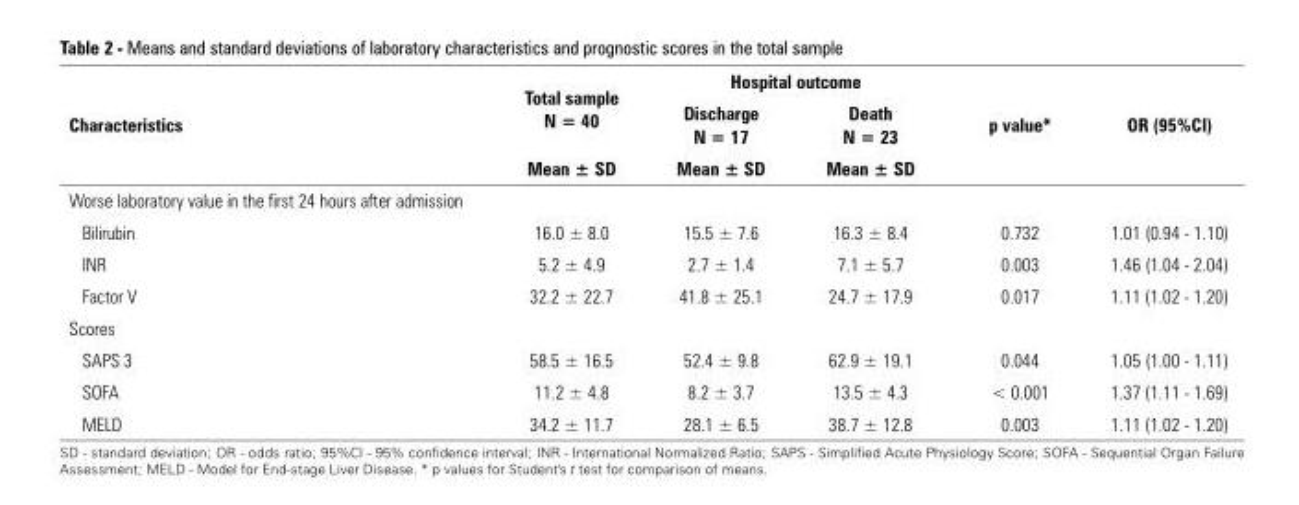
<table><thead><tr><td rowspan="3">Characteristics</td><td rowspan="3">Total sample N = 40 Mean ± SD</td><td colspan="2">Hospital outcome</td><td rowspan="3">p value*</td><td rowspan="3">OR (95%CI)</td></tr><tr><td rowspan="2">Discharge N = 17 Mean ± SD</td><td rowspan="2">Death N = 23 Mean ± SD</td></tr><tr></tr></thead><tbody><tr><td colspan="6">Worse laboratory value in the first 24 hours after admission</td></tr><tr><td>Bilirubin</td><td>16.0 ± 8.0</td><td>15.5 ± 7.6</td><td>16.3 ± 8.4</td><td>0.732</td><td>1.01 (0.94 - 1.10)</td></tr><tr><td>INR</td><td>5.2 ± 4.9</td><td>2.7 ± 1.4</td><td>7.1 ± 5.7</td><td>0.003</td><td>1.46 (1.04 - 2.04)</td></tr><tr><td>Factor V</td><td>32.2 ± 22.7</td><td>41.8 ± 25.1</td><td>24.7 ± 17.9</td><td>0.017</td><td>1.11 (1.02 - 1.20)</td></tr><tr><td colspan="6">Scores</td></tr><tr><td>SAPS 3</td><td>58.5 ± 16.5</td><td>52.4 ± 9.8</td><td>62.9 ± 19.1</td><td>0.044</td><td>1.05 (1.00 - 1.11)</td></tr><tr><td>SOFA</td><td>11.2 ± 4.8</td><td>8.2 ± 3.7</td><td>13.5 ± 4.3</td><td>&lt; 0.001</td><td>1.37 (1.11 - 1.69)</td></tr><tr><td>MELD</td><td>34.2 ± 11.7</td><td>28.1 ± 6.5</td><td>38.7 ± 12.8</td><td>0.003</td><td>1.11 (1.02 - 1.20)</td></tr></tbody></table>